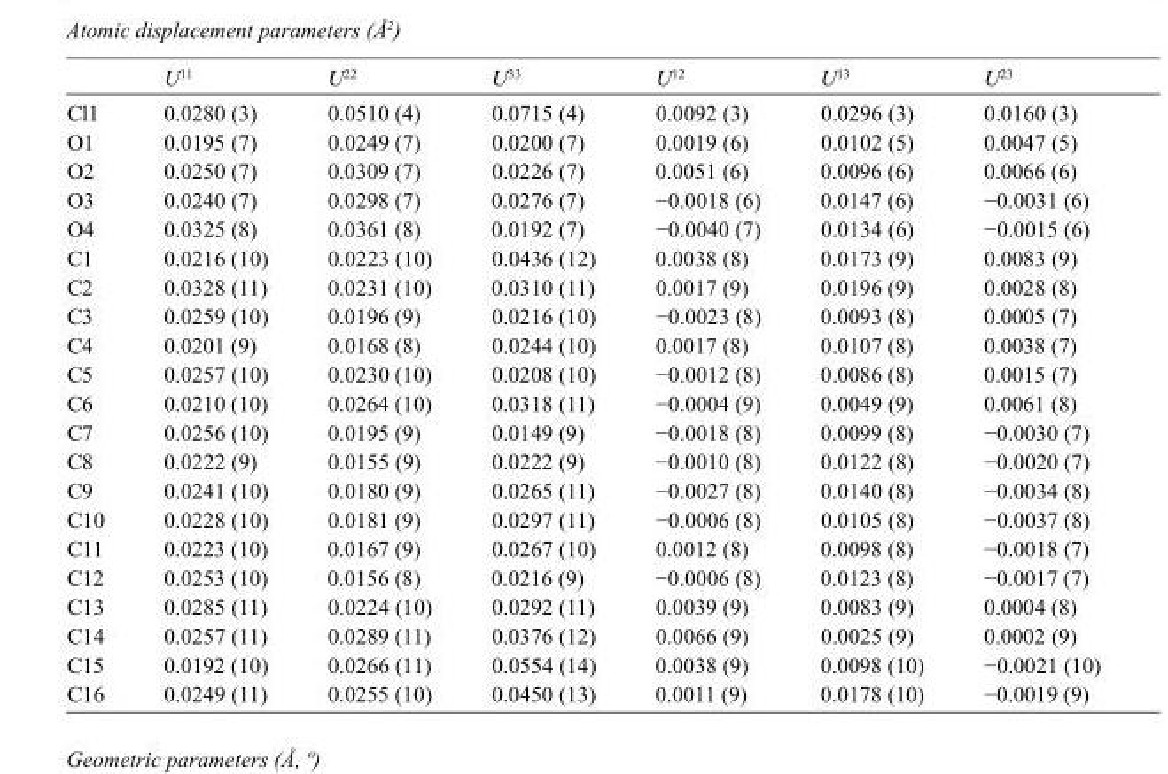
<table><thead><tr><td></td><td>U<sup>11</sup></td><td>U<sup>22</sup></td><td>U<sup>33</sup></td><td>U<sup>12</sup></td><td>U<sup>13</sup></td><td>U<sup>23</sup></td></tr></thead><tbody><tr><td>Cl1</td><td>0.0280 (3)</td><td>0.0510 (4)</td><td>0.0715 (4)</td><td>0.0092 (3)</td><td>0.0296 (3)</td><td>0.0160 (3)</td></tr><tr><td>O1</td><td>0.0195 (7)</td><td>0.0249 (7)</td><td>0.0200 (7)</td><td>0.0019 (6)</td><td>0.0102 (5)</td><td>0.0047 (5)</td></tr><tr><td>O2</td><td>0.0250 (7)</td><td>0.0309 (7)</td><td>0.0226 (7)</td><td>0.0051 (6)</td><td>0.0096 (6)</td><td>0.0066 (6)</td></tr><tr><td>O3</td><td>0.0240 (7)</td><td>0.0298 (7)</td><td>0.0276 (7)</td><td>−0.0018 (6)</td><td>0.0147 (6)</td><td>−0.0031 (6)</td></tr><tr><td>O4</td><td>0.0325 (8)</td><td>0.0361 (8)</td><td>0.0192 (7)</td><td>−0.0040 (7)</td><td>0.0134 (6)</td><td>−0.0015 (6)</td></tr><tr><td>C1</td><td>0.0216 (10)</td><td>0.0223 (10)</td><td>0.0436 (12)</td><td>0.0038 (8)</td><td>0.0173 (9)</td><td>0.0083 (9)</td></tr><tr><td>C2</td><td>0.0328 (11)</td><td>0.0231 (10)</td><td>0.0310 (11)</td><td>0.0017 (9)</td><td>0.0196 (9)</td><td>0.0028 (8)</td></tr><tr><td>C3</td><td>0.0259 (10)</td><td>0.0196 (9)</td><td>0.0216 (10)</td><td>−0.0023 (8)</td><td>0.0093 (8)</td><td>0.0005 (7)</td></tr><tr><td>C4</td><td>0.0201 (9)</td><td>0.0168 (8)</td><td>0.0244 (10)</td><td>0.0017 (8)</td><td>0.0107 (8)</td><td>0.0038 (7)</td></tr><tr><td>C5</td><td>0.0257 (10)</td><td>0.0230 (10)</td><td>0.0208 (10)</td><td>−0.0012 (8)</td><td>0.0086 (8)</td><td>0.0015 (7)</td></tr><tr><td>C6</td><td>0.0210 (10)</td><td>0.0264 (10)</td><td>0.0318 (11)</td><td>−0.0004 (9)</td><td>0.0049 (9)</td><td>0.0061 (8)</td></tr><tr><td>C7</td><td>0.0256 (10)</td><td>0.0195 (9)</td><td>0.0149 (9)</td><td>−0.0018 (8)</td><td>0.0099 (8)</td><td>−0.0030 (7)</td></tr><tr><td>C8</td><td>0.0222 (9)</td><td>0.0155 (9)</td><td>0.0222 (9)</td><td>−0.0010 (8)</td><td>0.0122 (8)</td><td>−0.0020 (7)</td></tr><tr><td>C9</td><td>0.0241 (10)</td><td>0.0180 (9)</td><td>0.0265 (11)</td><td>−0.0027 (8)</td><td>0.0140 (8)</td><td>−0.0034 (8)</td></tr><tr><td>C10</td><td>0.0228 (10)</td><td>0.0181 (9)</td><td>0.0297 (11)</td><td>−0.0006 (8)</td><td>0.0105 (8)</td><td>−0.0037 (8)</td></tr><tr><td>C11</td><td>0.0223 (10)</td><td>0.0167 (9)</td><td>0.0267 (10)</td><td>0.0012 (8)</td><td>0.0098 (8)</td><td>−0.0018 (7)</td></tr><tr><td>C12</td><td>0.0253 (10)</td><td>0.0156 (8)</td><td>0.0216 (9)</td><td>−0.0006 (8)</td><td>0.0123 (8)</td><td>−0.0017 (7)</td></tr><tr><td>C13</td><td>0.0285 (11)</td><td>0.0224 (10)</td><td>0.0292 (11)</td><td>0.0039 (9)</td><td>0.0083 (9)</td><td>0.0004 (8)</td></tr><tr><td>C14</td><td>0.0257 (11)</td><td>0.0289 (11)</td><td>0.0376 (12)</td><td>0.0066 (9)</td><td>0.0025 (9)</td><td>0.0002 (9)</td></tr><tr><td>C15</td><td>0.0192 (10)</td><td>0.0266 (11)</td><td>0.0554 (14)</td><td>0.0038 (9)</td><td>0.0098 (10)</td><td>−0.0021 (10)</td></tr><tr><td>C16</td><td>0.0249 (11)</td><td>0.0255 (10)</td><td>0.0450 (13)</td><td>0.0011 (9)</td><td>0.0178 (10)</td><td>−0.0019 (9)</td></tr></tbody></table>